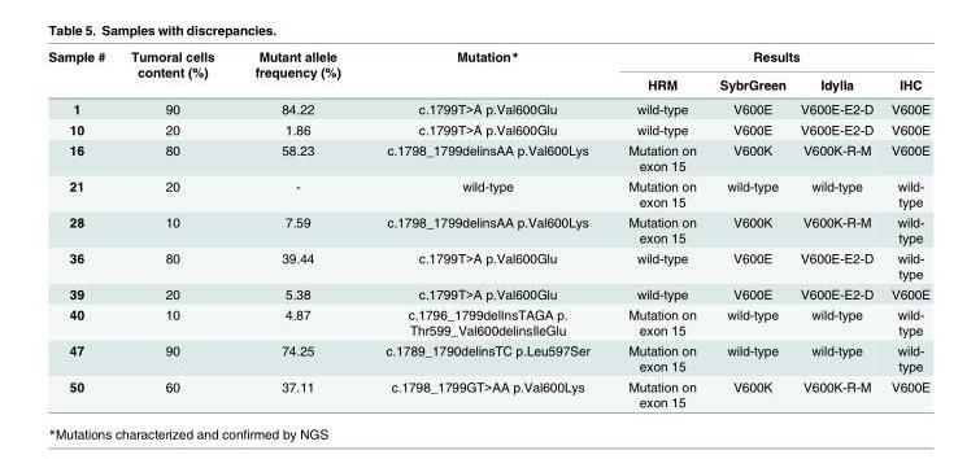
<table><thead><tr><td rowspan="2">Sample #</td><td rowspan="2">Tumoral cells content (%)</td><td rowspan="2">Mutant allele frequency (%)</td><td rowspan="2">Mutation*</td><td colspan="4">Results</td></tr><tr><td>HRM</td><td>SybrGreen</td><td>Idylla</td><td>IHC</td></tr></thead><tbody><tr><td>1</td><td>90</td><td>84.22</td><td>c.1799T&gt;A p.Val600Glu</td><td>wild-type</td><td>V600E</td><td>V600E-E2-D</td><td>V600E</td></tr><tr><td>10</td><td>20</td><td>1.86</td><td>c.1799T&gt;A p.Val600Glu</td><td>wild-type</td><td>V600E</td><td>V600E-E2-D</td><td>V600E</td></tr><tr><td>16</td><td>80</td><td>58.23</td><td>c.1798_1799delinsAA p.Val600Lys</td><td>Mutation on exon 15</td><td>V600K</td><td>V600K-R-M</td><td>V600E</td></tr><tr><td>21</td><td>20</td><td>-</td><td>wild-type</td><td>Mutation on exon 15</td><td>wild-type</td><td>wild-type</td><td>wild- type</td></tr><tr><td>28</td><td>10</td><td>7.59</td><td>c.1798_1799delinsAA p.Val600Lys</td><td>Mutation on exon 15</td><td>V600K</td><td>V600K-R-M</td><td>wild- type</td></tr><tr><td>36</td><td>80</td><td>39.44</td><td>c.1799T&gt;A p.Val600Glu</td><td>wild-type</td><td>V600E</td><td>V600E-E2-D</td><td>wild- type</td></tr><tr><td>39</td><td>20</td><td>5.38</td><td>c.1799T&gt;A p.Val600Glu</td><td>wild-type</td><td>V600E</td><td>V600E-E2-D</td><td>V600E</td></tr><tr><td>40</td><td>10</td><td>4.87</td><td>c.1796_1799delInsTAGA p. Thr599_Val600delinsIleGlu</td><td>Mutation on exon 15</td><td>wild-type</td><td>wild-type</td><td>wild- type</td></tr><tr><td>47</td><td>90</td><td>74.25</td><td>c.1789_1790delinsTC p.Leu597Ser</td><td>Mutation on exon 15</td><td>wild-type</td><td>wild-type</td><td>wild- type</td></tr><tr><td>50</td><td>60</td><td>37.11</td><td>c.1798_1799GT&gt;AA p.Val600Lys</td><td>Mutation on exon 15</td><td>V600K</td><td>V600K-R-M</td><td>V600E</td></tr></tbody></table>